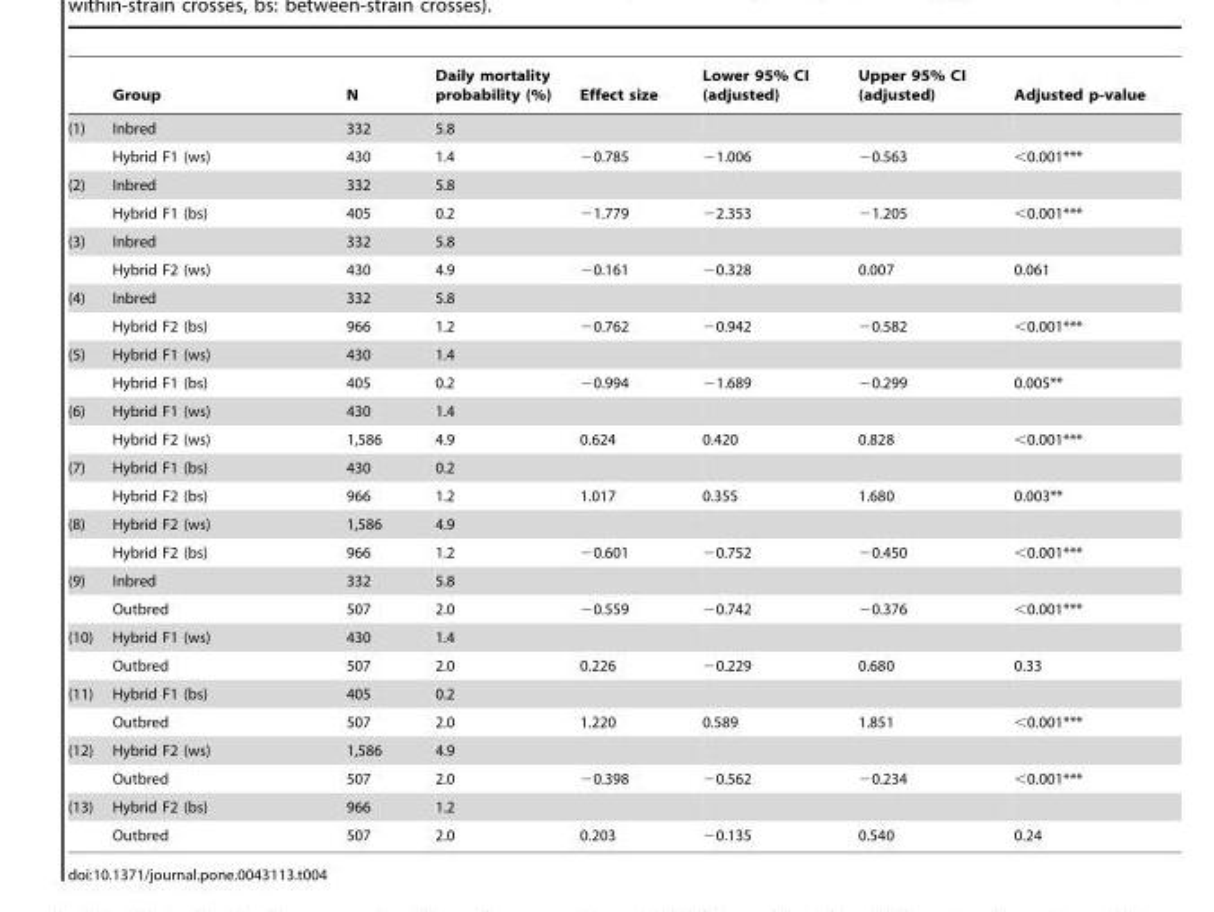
<table><thead><tr><td></td><td>Group</td><td>N</td><td>Daily mortality probability (%)</td><td>Effect size</td><td>Lower 95% CI (adjusted)</td><td>Upper 95% CI (adjusted)</td><td>Adjusted p-value</td></tr></thead><tbody><tr><td rowspan="2">(1)</td><td>Inbred</td><td>332</td><td>5.8</td><td></td><td></td><td></td><td></td></tr><tr><td>Hybrid F1 (ws)</td><td>430</td><td>1.4</td><td>−0.785</td><td>−1.006</td><td>−0.563</td><td>&lt;0.001***</td></tr><tr><td rowspan="2">(2)</td><td>Inbred</td><td>332</td><td>5.8</td><td></td><td></td><td></td><td></td></tr><tr><td>Hybrid F1 (bs)</td><td>405</td><td>0.2</td><td>−1.779</td><td>−2.353</td><td>−1.205</td><td>&lt;0.001***</td></tr><tr><td rowspan="2">(3)</td><td>Inbred</td><td>332</td><td>5.8</td><td></td><td></td><td></td><td></td></tr><tr><td>Hybrid F2 (ws)</td><td>430</td><td>4.9</td><td>−0.161</td><td>−0.328</td><td>0.007</td><td>0.061</td></tr><tr><td rowspan="2">(4)</td><td>Inbred</td><td>332</td><td>5.8</td><td></td><td></td><td></td><td></td></tr><tr><td>Hybrid F2 (bs)</td><td>966</td><td>1.2</td><td>−0.762</td><td>−0.942</td><td>−0.582</td><td>&lt;0.001***</td></tr><tr><td rowspan="2">(5)</td><td>Hybrid F1 (ws)</td><td>430</td><td>1.4</td><td></td><td></td><td></td><td></td></tr><tr><td>Hybrid F1 (bs)</td><td>405</td><td>0.2</td><td>−0.994</td><td>−1.689</td><td>−0.299</td><td>0.005**</td></tr><tr><td rowspan="2">(6)</td><td>Hybrid F1 (ws)</td><td>430</td><td>1.4</td><td></td><td></td><td></td><td></td></tr><tr><td>Hybrid F2 (ws)</td><td>1,586</td><td>4.9</td><td>0.624</td><td>0.420</td><td>0.828</td><td>&lt;0.001***</td></tr><tr><td rowspan="2">(7)</td><td>Hybrid F1 (bs)</td><td>430</td><td>0.2</td><td></td><td></td><td></td><td></td></tr><tr><td>Hybrid F2 (bs)</td><td>966</td><td>1.2</td><td>1.017</td><td>0.355</td><td>1.680</td><td>0.003**</td></tr><tr><td rowspan="2">(8)</td><td>Hybrid F2 (ws)</td><td>1,586</td><td>4.9</td><td></td><td></td><td></td><td></td></tr><tr><td>Hybrid F2 (bs)</td><td>966</td><td>1.2</td><td>−0.601</td><td>−0.752</td><td>−0.450</td><td>&lt;0.001***</td></tr><tr><td rowspan="2">(9)</td><td>Inbred</td><td>332</td><td>5.8</td><td></td><td></td><td></td><td></td></tr><tr><td>Outbred</td><td>507</td><td>2.0</td><td>−0.559</td><td>−0.742</td><td>−0.376</td><td>&lt;0.001***</td></tr><tr><td rowspan="2">(10)</td><td>Hybrid F1 (ws)</td><td>430</td><td>1.4</td><td></td><td></td><td></td><td></td></tr><tr><td>Outbred</td><td>507</td><td>2.0</td><td>0.226</td><td>−0.229</td><td>0.680</td><td>0.33</td></tr><tr><td rowspan="2">(11)</td><td>Hybrid F1 (bs)</td><td>405</td><td>0.2</td><td></td><td></td><td></td><td></td></tr><tr><td>Outbred</td><td>507</td><td>2.0</td><td>1.220</td><td>0.589</td><td>1.851</td><td>&lt;0.001***</td></tr><tr><td rowspan="2">(12)</td><td>Hybrid F2 (ws)</td><td>1,586</td><td>4.9</td><td></td><td></td><td></td><td></td></tr><tr><td>Outbred</td><td>507</td><td>2.0</td><td>−0.398</td><td>−0.562</td><td>−0.234</td><td>&lt;0.001***</td></tr><tr><td rowspan="2">(13)</td><td>Hybrid F2 (bs)</td><td>966</td><td>1.2</td><td></td><td></td><td></td><td></td></tr><tr><td>Outbred</td><td>507</td><td>2.0</td><td>0.203</td><td>−0.135</td><td>0.540</td><td>0.24</td></tr></tbody></table>